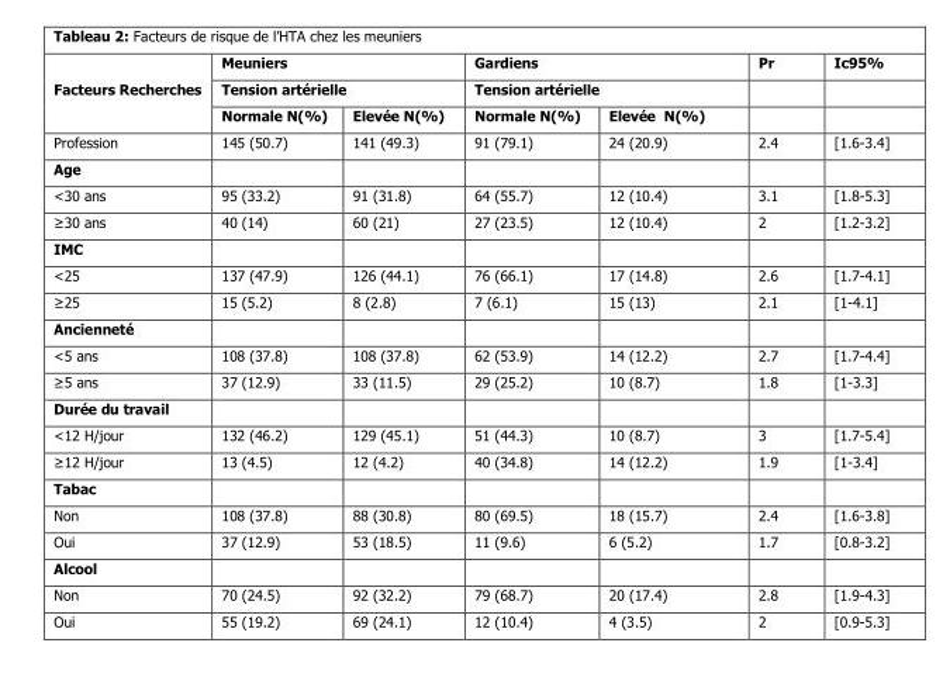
<table><thead><tr><td rowspan="3">Facteurs Recherches</td><td rowspan="2" colspan="2">Meuniers Tension artérielle</td><td rowspan="2" colspan="2">Gardiens Tension artérielle</td><td rowspan="3">Pr</td><td rowspan="3">Ic95%</td></tr><tr></tr><tr><td>Normale N(%)</td><td>Elevée N(%)</td><td>Normale N(%)</td><td>Elevée N(%)</td></tr></thead><tbody><tr><td>Profession</td><td>145 (50.7)</td><td>141 (49.3)</td><td>91 (79.1)</td><td>24 (20.9)</td><td>2.4</td><td>[1.6-3.4]</td></tr><tr><td colspan="7">Age</td></tr><tr><td>&lt;30 ans</td><td>95 (33.2)</td><td>91 (31.8)</td><td>64 (55.7)</td><td>12 (10.4)</td><td>3.1</td><td>[1.8-5.3]</td></tr><tr><td>≥30 ans</td><td>40 (14)</td><td>60 (21)</td><td>27 (23.5)</td><td>12 (10.4)</td><td>2</td><td>[1.2-3.2]</td></tr><tr><td colspan="7">IMC</td></tr><tr><td>&lt;25</td><td>137 (47.9)</td><td>126 (44.1)</td><td>76 (66.1)</td><td>17 (14.8)</td><td>2.6</td><td>[1.7-4.1]</td></tr><tr><td>≥25</td><td>15 (5.2)</td><td>8 (2.8)</td><td>7 (6.1)</td><td>15 (13)</td><td>2.1</td><td>[1-4.1]</td></tr><tr><td colspan="7">Ancienneté</td></tr><tr><td>&lt;5 ans</td><td>108 (37.8)</td><td>108 (37.8)</td><td>62 (53.9)</td><td>14 (12.2)</td><td>2.7</td><td>[1.7-4.4]</td></tr><tr><td>≥5 ans</td><td>37 (12.9)</td><td>33 (11.5)</td><td>29 (25.2)</td><td>10 (8.7)</td><td>1.8</td><td>[1-3.3]</td></tr><tr><td colspan="7">Durée du travail</td></tr><tr><td>&lt;12 H/jour</td><td>132 (46.2)</td><td>129 (45.1)</td><td>51 (44.3)</td><td>10 (8.7)</td><td>3</td><td>[1.7-5.4]</td></tr><tr><td>≥12 H/jour</td><td>13 (4.5)</td><td>12 (4.2)</td><td>40 (34.8)</td><td>14 (12.2)</td><td>1.9</td><td>[1-3.4]</td></tr><tr><td colspan="7">Tabac</td></tr><tr><td>Non</td><td>108 (37.8)</td><td>88 (30.8)</td><td>80 (69.5)</td><td>18 (15.7)</td><td>2.4</td><td>[1.6-3.8]</td></tr><tr><td>Oui</td><td>37 (12.9)</td><td>53 (18.5)</td><td>11 (9.6)</td><td>6 (5.2)</td><td>1.7</td><td>[0.8-3.2]</td></tr><tr><td colspan="7">Alcool</td></tr><tr><td>Non</td><td>70 (24.5)</td><td>92 (32.2)</td><td>79 (68.7)</td><td>20 (17.4)</td><td>2.8</td><td>[1.9-4.3]</td></tr><tr><td>Oui</td><td>55 (19.2)</td><td>69 (24.1)</td><td>12 (10.4)</td><td>4 (3.5)</td><td>2</td><td>[0.9-5.3]</td></tr></tbody></table>